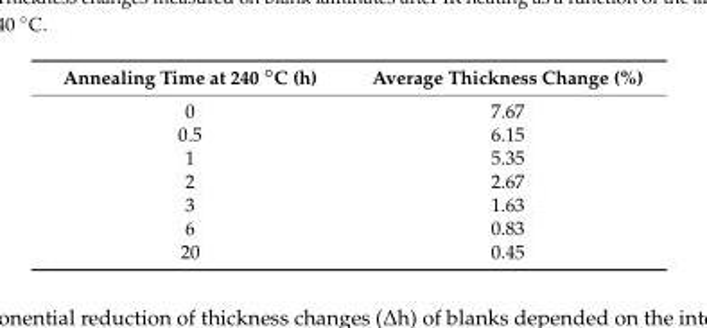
<table><thead><tr><td>Annealing Time at 240 ◦C (h)</td><td>Average Thickness Change (%)</td></tr></thead><tbody><tr><td>0</td><td>7.67</td></tr><tr><td>0.5</td><td>6.15</td></tr><tr><td>1</td><td>5.35</td></tr><tr><td>2</td><td>2.67</td></tr><tr><td>3</td><td>1.63</td></tr><tr><td>6</td><td>0.83</td></tr><tr><td>20</td><td>0.45</td></tr></tbody></table>